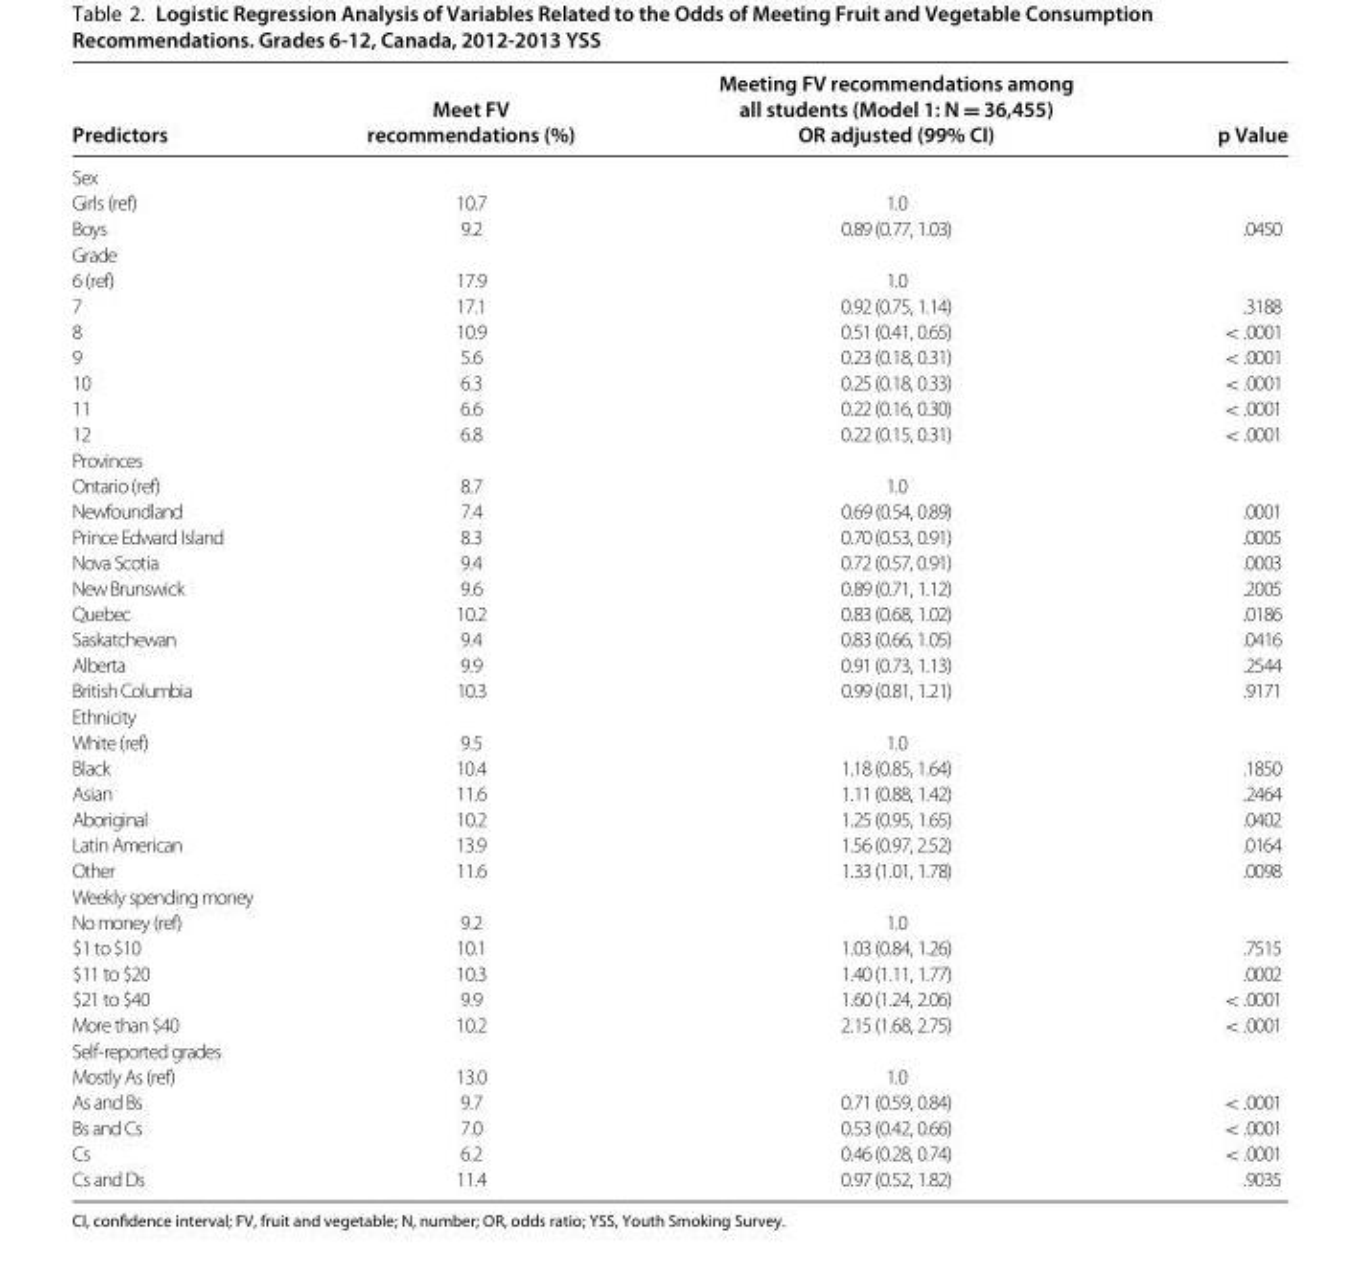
<table><thead><tr><td>Predictors</td><td>Meet FV recommendations (%)</td><td>Meeting FV recommendations among all students (Model 1: N = 36,455) OR adjusted (99% CI)</td><td>p Value</td></tr></thead><tbody><tr><td colspan="4">Sex</td></tr><tr><td>Girls (ref)</td><td>10.7</td><td>1.0</td><td></td></tr><tr><td>Boys</td><td>9.2</td><td>0.89(0.77, 1.03)</td><td>.0450</td></tr><tr><td colspan="4">Grade</td></tr><tr><td>6(ref)</td><td>17.9</td><td>1.0</td><td></td></tr><tr><td>7</td><td>17.1</td><td>0.92(0.75, 1.14)</td><td>.3188</td></tr><tr><td>8</td><td>10.9</td><td>0.51(0.41, 0.65)</td><td>&lt;.0001</td></tr><tr><td>9</td><td>5.6</td><td>0.23(0.18, 0.31)</td><td>&lt;.0001</td></tr><tr><td>10</td><td>6.3</td><td>0.25(0.18, 0.33)</td><td>&lt;.0001</td></tr><tr><td>11</td><td>6.6</td><td>0.22(0.16, 0.30)</td><td>&lt;.0001</td></tr><tr><td>12</td><td>6.8</td><td>0.22(0.15, 0.31)</td><td>&lt;.0001</td></tr><tr><td colspan="4">Provinces</td></tr><tr><td>Ontario(ref)</td><td>8.7</td><td>1.0</td><td></td></tr><tr><td>Newfoundland</td><td>7.4</td><td>0.69(0.54, 0.89)</td><td>.0001</td></tr><tr><td>PrinceEdwardIsland</td><td>8.3</td><td>0.70(0.53, 0.91)</td><td>.0005</td></tr><tr><td>NovaScotia</td><td>9.4</td><td>0.72(0.57, 0.91)</td><td>.0003</td></tr><tr><td>NewBrunswick</td><td>9.6</td><td>0.89(0.71, 1.12)</td><td>.2005</td></tr><tr><td>Quebec</td><td>10.2</td><td>0.83(0.68, 1.02)</td><td>.0186</td></tr><tr><td>Saskatchewan</td><td>9.4</td><td>0.83(0.66, 1.05)</td><td>.0416</td></tr><tr><td>Alberta</td><td>9.9</td><td>0.91(0.73, 1.13)</td><td>.2544</td></tr><tr><td>BritishColumbia</td><td>10.3</td><td>0.99(0.81, 1.21)</td><td>.9171</td></tr><tr><td colspan="4">Ethnicity</td></tr><tr><td>White(ref)</td><td>9.5</td><td>1.0</td><td></td></tr><tr><td>Black</td><td>10.4</td><td>1.18(0.85, 1.64)</td><td>.1850</td></tr><tr><td>Asian</td><td>11.6</td><td>1.11(0.88, 1.42)</td><td>.2464</td></tr><tr><td>Aboriginal</td><td>10.2</td><td>1.25(0.95, 1.65)</td><td>.0402</td></tr><tr><td>LatinAmerican</td><td>13.9</td><td>1.56(0.97, 2.52)</td><td>.0164</td></tr><tr><td>Other</td><td>11.6</td><td>1.33(1.01, 1.78)</td><td>.0098</td></tr><tr><td colspan="4">Weeklyspendingmoney</td></tr><tr><td>Nomoney(ref)</td><td>9.2</td><td>1.0</td><td></td></tr><tr><td>$1to$10</td><td>10.1</td><td>1.03(0.84, 1.26)</td><td>.7515</td></tr><tr><td>$11to$20</td><td>10.3</td><td>1.40(1.11, 1.77)</td><td>.0002</td></tr><tr><td>$21to$40</td><td>9.9</td><td>1.60(1.24, 2.06)</td><td>&lt;.0001</td></tr><tr><td>Morethan$40</td><td>10.2</td><td>2.15(1.68, 2.75)</td><td>&lt;.0001</td></tr><tr><td colspan="4">Self-reportedgrades</td></tr><tr><td>MostlyAs (ref)</td><td>13.0</td><td>1.0</td><td></td></tr><tr><td>As andBs</td><td>9.7</td><td>0.71(0.59, 0.84)</td><td>&lt;.0001</td></tr><tr><td>Bs andCs</td><td>7.0</td><td>0.53(0.42, 0.66)</td><td>&lt;.0001</td></tr><tr><td>Cs</td><td>6.2</td><td>0.46(0.28, 0.74)</td><td>&lt;.0001</td></tr><tr><td>Cs andDs</td><td>11.4</td><td>0.97(0.52, 1.82)</td><td>.9035</td></tr></tbody></table>